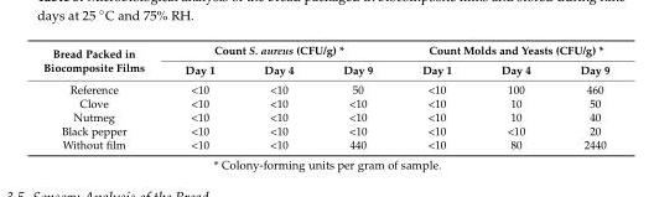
<table><thead><tr><td rowspan="2">Bread Packed in Biocomposite Films</td><td colspan="3">Count S. aureus (CFU/g) *</td><td colspan="3">Count Molds and Yeasts (CFU/g) *</td></tr><tr><td>Day 1</td><td>Day 4</td><td>Day 9</td><td>Day 1</td><td>Day 4</td><td>Day 9</td></tr></thead><tbody><tr><td>Reference</td><td>&lt;10</td><td>&lt;10</td><td>50</td><td>&lt;10</td><td>100</td><td>460</td></tr><tr><td>Clove</td><td>&lt;10</td><td>&lt;10</td><td>&lt;10</td><td>&lt;10</td><td>10</td><td>50</td></tr><tr><td>Nutmeg</td><td>&lt;10</td><td>&lt;10</td><td>&lt;10</td><td>&lt;10</td><td>10</td><td>40</td></tr><tr><td>Black pepper</td><td>&lt;10</td><td>&lt;10</td><td>&lt;10</td><td>&lt;10</td><td>&lt;10</td><td>20</td></tr><tr><td>Without film</td><td>&lt;10</td><td>&lt;10</td><td>440</td><td>&lt;10</td><td>80</td><td>2440</td></tr></tbody></table>